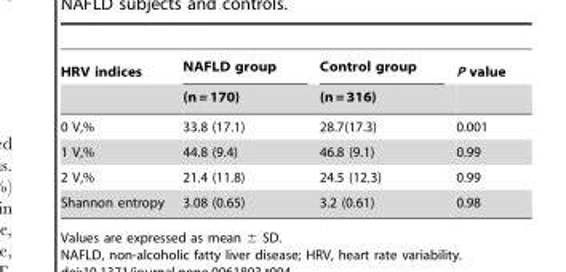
<table><thead><tr><td rowspan="2">HRV indices</td><td rowspan="2">NAFLD group (n = 170)</td><td rowspan="2">Control group (n = 316)</td><td rowspan="2">P value</td></tr><tr></tr></thead><tbody><tr><td>0 V,%</td><td>33.8 (17.1)</td><td>28.7(17.3)</td><td>0.001</td></tr><tr><td>1 V,%</td><td>44.8 (9.4)</td><td>46.8 (9.1)</td><td>0.99</td></tr><tr><td>2 V,%</td><td>21.4 (11.8)</td><td>24.5 (12.3)</td><td>0.99</td></tr><tr><td>Shannon entropy</td><td>3.08 (0.65)</td><td>3.2 (0.61)</td><td>0.98</td></tr></tbody></table>